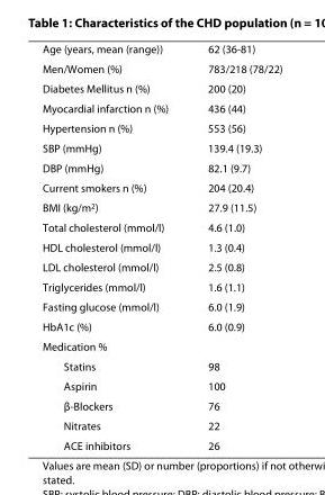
<table><tbody><tr><td>Age (years, mean (range))</td><td>62 (36-81)</td></tr><tr><td>Men/Women (%)</td><td>783/218 (78/22)</td></tr><tr><td>Diabetes Mellitus n (%)</td><td>200 (20)</td></tr><tr><td>Myocardial infarction n (%)</td><td>436 (44)</td></tr><tr><td>Hypertension n (%)</td><td>553 (56)</td></tr><tr><td>SBP (mmHg)</td><td>139.4 (19.3)</td></tr><tr><td>DBP (mmHg)</td><td>82.1 (9.7)</td></tr><tr><td>Current smokers n (%)</td><td>204 (20.4)</td></tr><tr><td>BMI (kg/m<sup>2</sup>)</td><td>27.9 (11.5)</td></tr><tr><td>Total cholesterol (mmol/l)</td><td>4.6 (1.0)</td></tr><tr><td>HDL cholesterol (mmol/l)</td><td>1.3 (0.4)</td></tr><tr><td>LDL cholesterol (mmol/l)</td><td>2.5 (0.8)</td></tr><tr><td>Triglycerides (mmol/l)</td><td>1.6 (1.1)</td></tr><tr><td>Fasting glucose (mmol/l)</td><td>6.0 (1.9)</td></tr><tr><td>HbA1c (%)</td><td>6.0 (0.9)</td></tr><tr><td colspan="2">Medication %</td></tr><tr><td>Statins</td><td>98</td></tr><tr><td>Aspirin</td><td>100</td></tr><tr><td>β-Blockers</td><td>76</td></tr><tr><td>Nitrates</td><td>22</td></tr><tr><td>ACE inhibitors</td><td>26</td></tr></tbody></table>